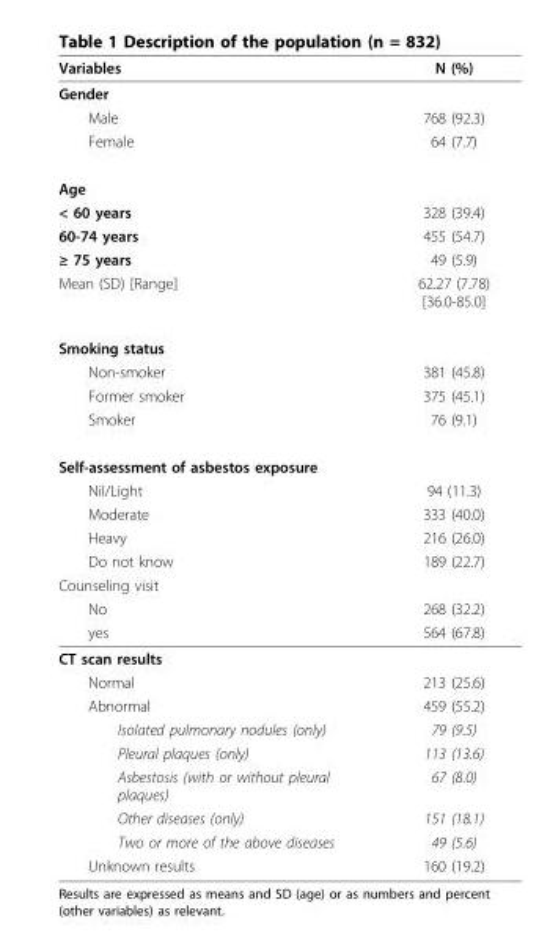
<table><thead><tr><td>Variables</td><td>N (%)</td></tr></thead><tbody><tr><td colspan="2">Gender</td></tr><tr><td>Male</td><td>768 (92.3)</td></tr><tr><td>Female</td><td>64 (7.7)</td></tr><tr><td colspan="2">Age</td></tr><tr><td>&lt; 60 years</td><td>328 (39.4)</td></tr><tr><td>60-74 years</td><td>455 (54.7)</td></tr><tr><td>≥ 75 years</td><td>49 (5.9)</td></tr><tr><td>Mean (SD) [Range]</td><td>62.27 (7.78) [36.0-85.0]</td></tr><tr><td colspan="2">Smoking status</td></tr><tr><td>Non-smoker</td><td>381 (45.8)</td></tr><tr><td>Former smoker</td><td>375 (45.1)</td></tr><tr><td>Smoker</td><td>76 (9.1)</td></tr><tr><td colspan="2">Self-assessment of asbestos exposure</td></tr><tr><td>Nil/Light</td><td>94 (11.3)</td></tr><tr><td>Moderate</td><td>333 (40.0)</td></tr><tr><td>Heavy</td><td>216 (26.0)</td></tr><tr><td>Do not know</td><td>189 (22.7)</td></tr><tr><td colspan="2">Counseling visit</td></tr><tr><td>No</td><td>268 (32.2)</td></tr><tr><td>yes</td><td>564 (67.8)</td></tr><tr><td colspan="2">CT scan results</td></tr><tr><td>Normal</td><td>213 (25.6)</td></tr><tr><td>Abnormal</td><td>459 (55.2)</td></tr><tr><td>Isolated pulmonary nodules (only)</td><td>79 (9.5)</td></tr><tr><td>Pleural plaques (only)</td><td>113 (13.6)</td></tr><tr><td>Asbestosis (with or without pleural plaques)</td><td>67 (8.0)</td></tr><tr><td>Other diseases (only)</td><td>151 (18.1)</td></tr><tr><td>Two or more of the above diseases</td><td>49 (5.6)</td></tr><tr><td>Unknown results</td><td>160 (19.2)</td></tr></tbody></table>